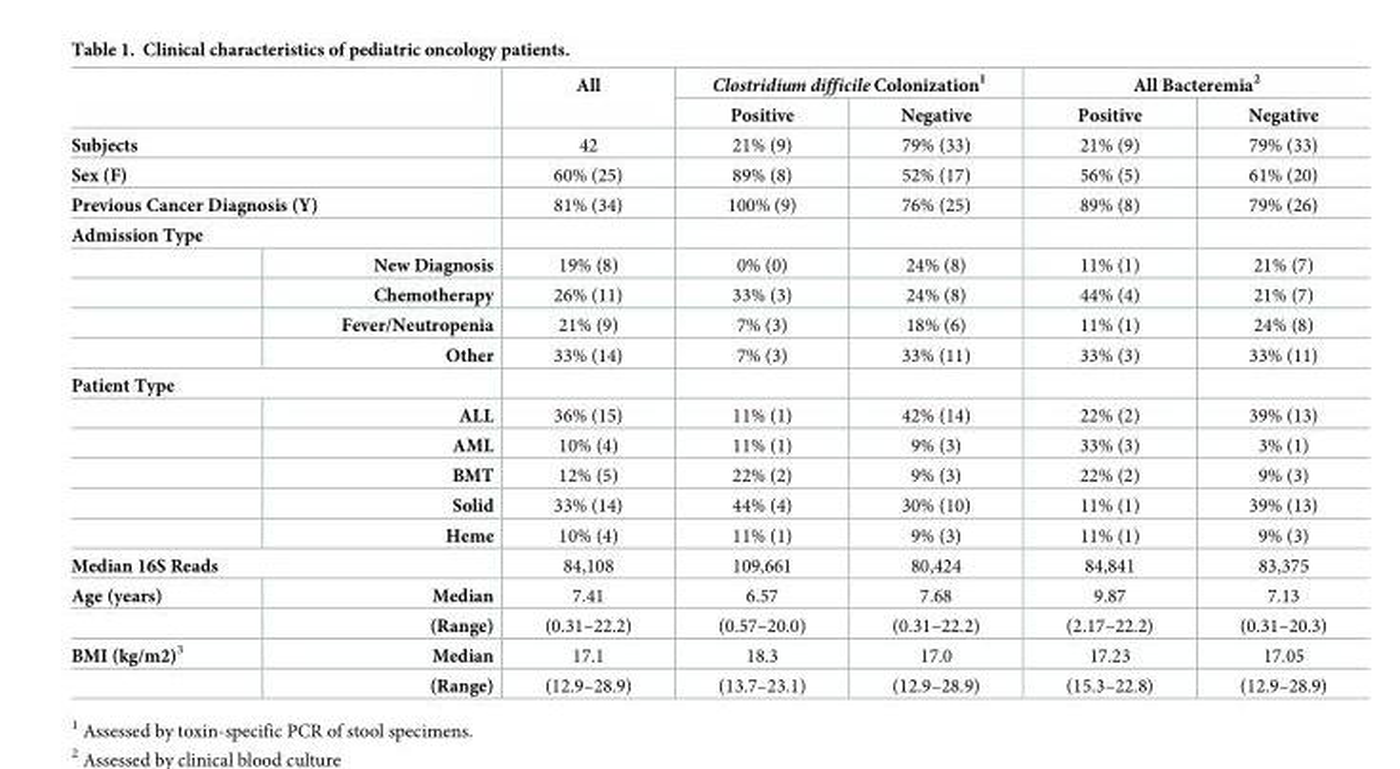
<table><thead><tr><td rowspan="2"></td><td rowspan="2"></td><td rowspan="2">All</td><td colspan="2">Clostridium difficile Colonization<sup>1</sup></td><td colspan="2">All Bacteremia<sup>2</sup></td></tr><tr><td>Positive</td><td>Negative</td><td>Positive</td><td>Negative</td></tr></thead><tbody><tr><td colspan="2">Subjects</td><td>42</td><td>21% (9)</td><td>79% (33)</td><td>21% (9)</td><td>79% (33)</td></tr><tr><td colspan="2">Sex (F)</td><td>60% (25)</td><td>89% (8)</td><td>52% (17)</td><td>56% (5)</td><td>61% (20)</td></tr><tr><td colspan="2">Previous Cancer Diagnosis (Y)</td><td>81% (34)</td><td>100% (9)</td><td>76% (25)</td><td>89% (8)</td><td>79% (26)</td></tr><tr><td colspan="7">Admission Type</td></tr><tr><td></td><td>New Diagnosis</td><td>19% (8)</td><td>0% (0)</td><td>24% (8)</td><td>11% (1)</td><td>21% (7)</td></tr><tr><td></td><td>Chemotherapy</td><td>26% (11)</td><td>33% (3)</td><td>24% (8)</td><td>44% (4)</td><td>21% (7)</td></tr><tr><td></td><td>Fever/Neutropenia</td><td>21% (9)</td><td>7% (3)</td><td>18% (6)</td><td>11% (1)</td><td>24% (8)</td></tr><tr><td></td><td>Other</td><td>33% (14)</td><td>7% (3)</td><td>33% (11)</td><td>33% (3)</td><td>33% (11)</td></tr><tr><td colspan="7">Patient Type</td></tr><tr><td></td><td>ALL</td><td>36% (15)</td><td>11% (1)</td><td>42% (14)</td><td>22% (2)</td><td>39% (13)</td></tr><tr><td></td><td>AML</td><td>10% (4)</td><td>11% (1)</td><td>9% (3)</td><td>33% (3)</td><td>3% (1)</td></tr><tr><td></td><td>BMT</td><td>12% (5)</td><td>22% (2)</td><td>9% (3)</td><td>22% (2)</td><td>9% (3)</td></tr><tr><td></td><td>Solid</td><td>33% (14)</td><td>44% (4)</td><td>30% (10)</td><td>11% (1)</td><td>39% (13)</td></tr><tr><td></td><td>Heme</td><td>10% (4)</td><td>11% (1)</td><td>9% (3)</td><td>11% (1)</td><td>9% (3)</td></tr><tr><td colspan="2">Median 16S Reads</td><td>84,108</td><td>109,661</td><td>80,424</td><td>84,841</td><td>83,375</td></tr><tr><td rowspan="2">Age (years)</td><td>Median</td><td>7.41</td><td>6.57</td><td>7.68</td><td>9.87</td><td>7.13</td></tr><tr><td>(Range)</td><td>(0.31–22.2)</td><td>(0.57–20.0)</td><td>(0.31–22.2)</td><td>(2.17–22.2)</td><td>(0.31–20.3)</td></tr><tr><td rowspan="2">BMI (kg/m2)<sup>3</sup></td><td>Median</td><td>17.1</td><td>18.3</td><td>17.0</td><td>17.23</td><td>17.05</td></tr><tr><td>(Range)</td><td>(12.9–28.9)</td><td>(13.7–23.1)</td><td>(12.9–28.9)</td><td>(15.3–22.8)</td><td>(12.9–28.9)</td></tr></tbody></table>